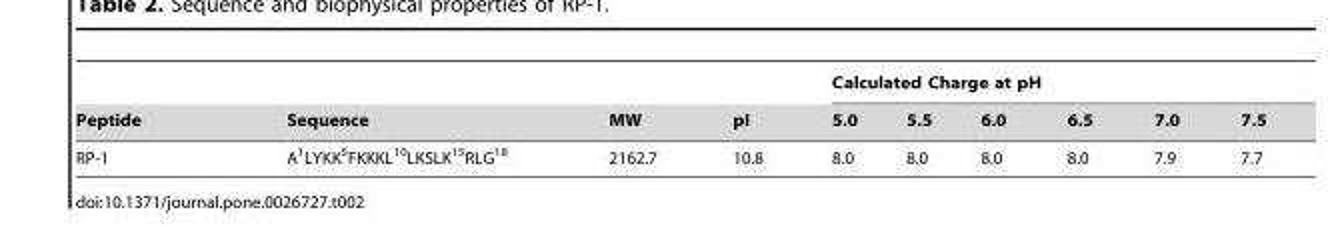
<table><thead><tr><td rowspan="2">Peptide</td><td rowspan="2">Sequence</td><td rowspan="2">MW</td><td rowspan="2">pI</td><td colspan="6">Calculated Charge at pH</td></tr><tr><td>5.0</td><td>5.5</td><td>6.0</td><td>6.5</td><td>7.0</td><td>7.5</td></tr></thead><tbody><tr><td>RP-1</td><td>A<sup>1</sup>LYKK<sup>5</sup>FKKKL<sup>10</sup>LKSLK<sup>15</sup>RLG<sup>18</sup></td><td>2162.7</td><td>10.8</td><td>8.0</td><td>8.0</td><td>8.0</td><td>8.0</td><td>7.9</td><td>7.7</td></tr></tbody></table>